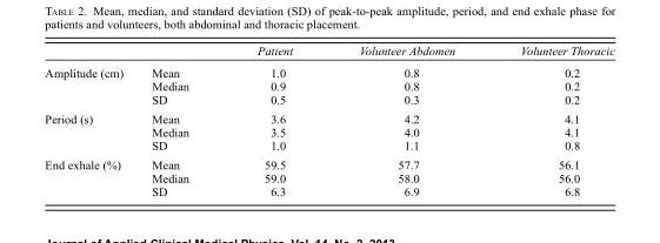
<table><thead><tr><td></td><td></td><td>Patient</td><td>Volunteer Abdomen</td><td>Volunteer Thoracic</td></tr></thead><tbody><tr><td rowspan="3">Amplitude (cm)</td><td>Mean</td><td>1.0</td><td>0.8</td><td>0.2</td></tr><tr><td>Median</td><td>0.9</td><td>0.8</td><td>0.2</td></tr><tr><td>SD</td><td>0.5</td><td>0.3</td><td>0.2</td></tr><tr><td rowspan="3">Period (s)</td><td>Mean</td><td>3.6</td><td>4.2</td><td>4.1</td></tr><tr><td>Median</td><td>3.5</td><td>4.0</td><td>4.1</td></tr><tr><td>SD</td><td>1.0</td><td>1.1</td><td>0.8</td></tr><tr><td rowspan="3">End exhale (%)</td><td>Mean</td><td>59.5</td><td>57.7</td><td>56.1</td></tr><tr><td>Median</td><td>59.0</td><td>58.0</td><td>56.0</td></tr><tr><td>SD</td><td>6.3</td><td>6.9</td><td>6.8</td></tr></tbody></table>